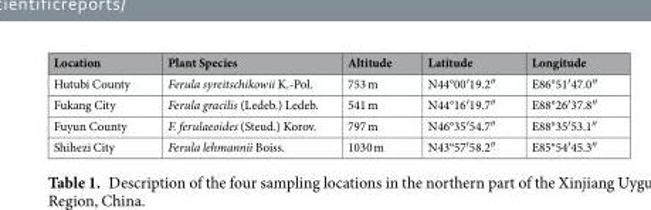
<table><thead><tr><td>Location</td><td>Plant Species</td><td>Altitude</td><td>Latitude</td><td>Longitude</td></tr></thead><tbody><tr><td>Hutubi County</td><td>Ferula syreitschikowii K.-Pol.</td><td>753 m</td><td>N44°00′19.2″</td><td>E86°51′47.0″</td></tr><tr><td>Fukang City</td><td>Ferula gracilis (Ledeb.) Ledeb.</td><td>541 m</td><td>N44°16′19.7″</td><td>E88°26′37.8″</td></tr><tr><td>Fuyun County</td><td>F. ferulaeoides (Steud.) Korov.</td><td>797 m</td><td>N46°35′54.7″</td><td>E88°35′53.1″</td></tr><tr><td>Shihezi City</td><td>Ferula lehmannii Boiss.</td><td>1030 m</td><td>N43°57′58.2″</td><td>E85°54′45.3″</td></tr></tbody></table>